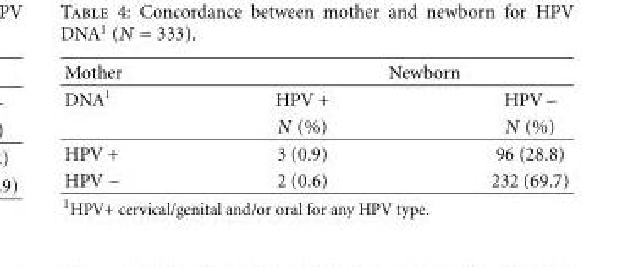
<table><thead><tr><td rowspan="2">Mother DNA1</td><td colspan="2">Newborn</td></tr><tr><td>HPV +</td><td>HPV –</td></tr></thead><tbody><tr><td></td><td>N (%)</td><td>N (%)</td></tr><tr><td>HPV +</td><td>3 (0.9)</td><td>96 (28.8)</td></tr><tr><td>HPV −</td><td>2 (0.6)</td><td>232 (69.7)</td></tr></tbody></table>